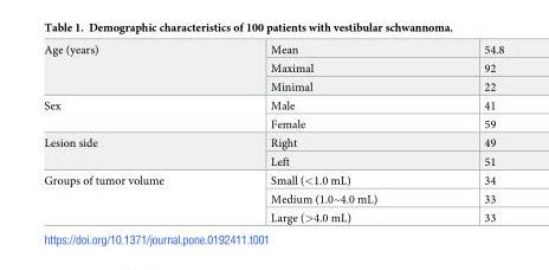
<table><tbody><tr><td rowspan="3">Age (years)</td><td>Mean</td><td>54.8</td></tr><tr><td>Maximal</td><td>92</td></tr><tr><td>Minimal</td><td>22</td></tr><tr><td rowspan="2">Sex</td><td>Male</td><td>41</td></tr><tr><td>Female</td><td>59</td></tr><tr><td rowspan="2">Lesion side</td><td>Right</td><td>49</td></tr><tr><td>Left</td><td>51</td></tr><tr><td rowspan="3">Groups of tumor volume</td><td>Small (&lt;1.0 mL)</td><td>34</td></tr><tr><td>Medium (1.0~4.0 mL)</td><td>33</td></tr><tr><td>Large (&gt;4.0 mL)</td><td>33</td></tr></tbody></table>